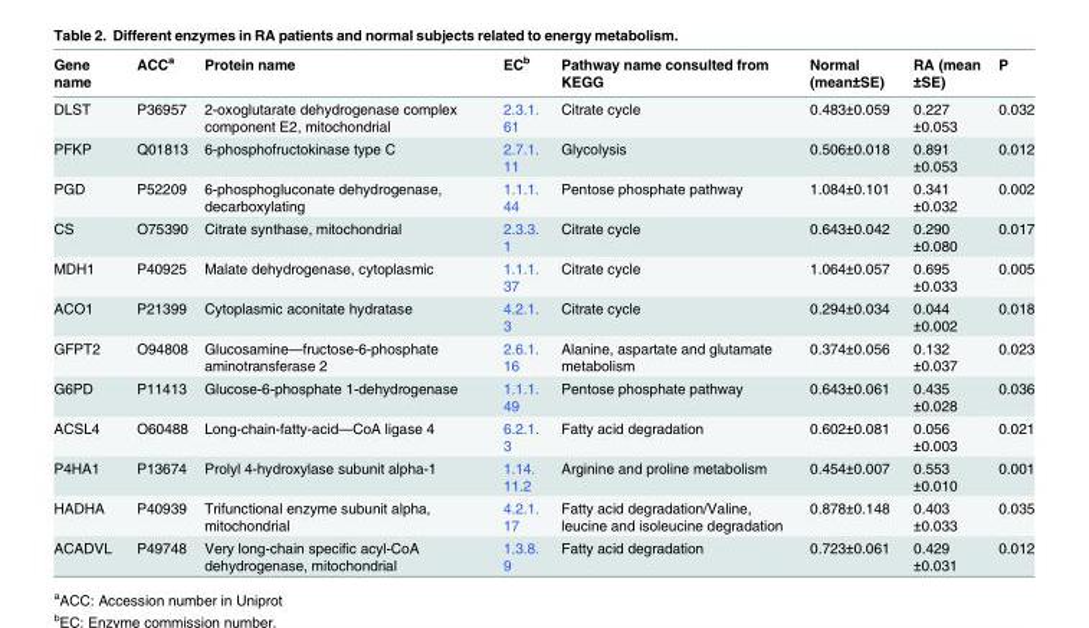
<table><thead><tr><td>Gene name</td><td>ACC<sup>a</sup></td><td>Protein name</td><td>EC<sup>b</sup></td><td>Pathway name consulted from KEGG</td><td>Normal (mean±SE)</td><td>RA (mean ±SE)</td><td>P</td></tr></thead><tbody><tr><td>DLST</td><td>P36957</td><td>2-oxoglutarate dehydrogenase complex component E2, mitochondrial</td><td>2.3.1. 61</td><td>Citrate cycle</td><td>0.483±0.059</td><td>0.227 ±0.053</td><td>0.032</td></tr><tr><td>PFKP</td><td>Q01813</td><td>6-phosphofructokinase type C</td><td>2.7.1. 11</td><td>Glycolysis</td><td>0.506±0.018</td><td>0.891 ±0.053</td><td>0.012</td></tr><tr><td>PGD</td><td>P52209</td><td>6-phosphogluconate dehydrogenase, decarboxylating</td><td>1.1.1. 44</td><td>Pentose phosphate pathway</td><td>1.084±0.101</td><td>0.341 ±0.032</td><td>0.002</td></tr><tr><td>CS</td><td>O75390</td><td>Citrate synthase, mitochondrial</td><td>2.3.3. 1</td><td>Citrate cycle</td><td>0.643±0.042</td><td>0.290 ±0.080</td><td>0.017</td></tr><tr><td>MDH1</td><td>P40925</td><td>Malate dehydrogenase, cytoplasmic</td><td>1.1.1. 37</td><td>Citrate cycle</td><td>1.064±0.057</td><td>0.695 ±0.033</td><td>0.005</td></tr><tr><td>ACO1</td><td>P21399</td><td>Cytoplasmic aconitate hydratase</td><td>4.2.1. 3</td><td>Citrate cycle</td><td>0.294±0.034</td><td>0.044 ±0.002</td><td>0.018</td></tr><tr><td>GFPT2</td><td>O94808</td><td>Glucosamine—fructose-6-phosphate aminotransferase 2</td><td>2.6.1. 16</td><td>Alanine, aspartate and glutamate metabolism</td><td>0.374±0.056</td><td>0.132 ±0.037</td><td>0.023</td></tr><tr><td>G6PD</td><td>P11413</td><td>Glucose-6-phosphate 1-dehydrogenase</td><td>1.1.1. 49</td><td>Pentose phosphate pathway</td><td>0.643±0.061</td><td>0.435 ±0.028</td><td>0.036</td></tr><tr><td>ACSL4</td><td>O60488</td><td>Long-chain-fatty-acid—CoA ligase 4</td><td>6.2.1. 3</td><td>Fatty acid degradation</td><td>0.602±0.081</td><td>0.056 ±0.003</td><td>0.021</td></tr><tr><td>P4HA1</td><td>P13674</td><td>Prolyl 4-hydroxylase subunit alpha-1</td><td>1.14. 11.2</td><td>Arginine and proline metabolism</td><td>0.454±0.007</td><td>0.553 ±0.010</td><td>0.001</td></tr><tr><td>HADHA</td><td>P40939</td><td>Trifunctional enzyme subunit alpha, mitochondrial</td><td>4.2.1. 17</td><td>Fatty acid degradation/Valine, leucine and isoleucine degradation</td><td>0.878±0.148</td><td>0.403 ±0.033</td><td>0.035</td></tr><tr><td>ACADVL</td><td>P49748</td><td>Very long-chain specific acyl-CoA dehydrogenase, mitochondrial</td><td>1.3.8. 9</td><td>Fatty acid degradation</td><td>0.723±0.061</td><td>0.429 ±0.031</td><td>0.012</td></tr></tbody></table>